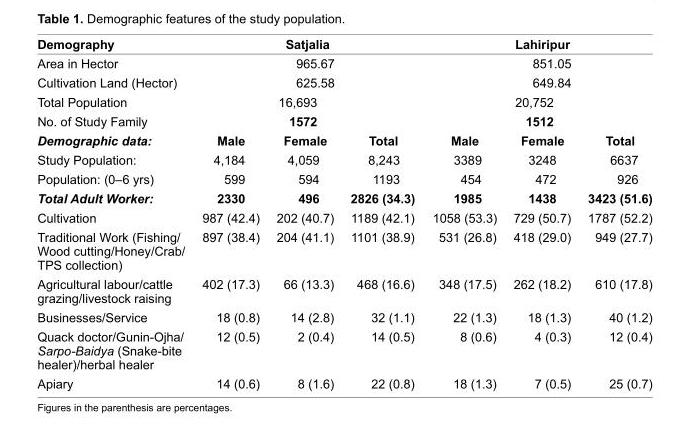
<table><thead><tr><td rowspan="2">Demography Area in Hector</td><td colspan="3">Satjalia</td><td colspan="3">Lahiripur</td></tr><tr><td></td><td>965.67</td><td></td><td></td><td>851.05</td><td></td></tr></thead><tbody><tr><td>Cultivation Land (Hector)</td><td></td><td>625.58</td><td></td><td></td><td>649.84</td><td></td></tr><tr><td>Total Population</td><td></td><td>16,693</td><td></td><td></td><td>20,752</td><td></td></tr><tr><td>No. of Study Family</td><td></td><td>1572</td><td></td><td></td><td>1512</td><td></td></tr><tr><td>Demographic data:</td><td>Male</td><td>Female</td><td>Total</td><td>Male</td><td>Female</td><td>Total</td></tr><tr><td>Study Population:</td><td>4,184</td><td>4,059</td><td>8,243</td><td>3389</td><td>3248</td><td>6637</td></tr><tr><td>Population: (0–6 yrs)</td><td>599</td><td>594</td><td>1193</td><td>454</td><td>472</td><td>926</td></tr><tr><td>Total Adult Worker:</td><td>2330</td><td>496</td><td>2826 (34.3)</td><td>1985</td><td>1438</td><td>3423 (51.6)</td></tr><tr><td>Cultivation</td><td>987 (42.4)</td><td>202 (40.7)</td><td>1189 (42.1)</td><td>1058 (53.3)</td><td>729 (50.7)</td><td>1787 (52.2)</td></tr><tr><td>Traditional Work (Fishing/ Wood cutting/Honey/Crab/ TPS collection)</td><td>897 (38.4)</td><td>204 (41.1)</td><td>1101 (38.9)</td><td>531 (26.8)</td><td>418 (29.0)</td><td>949 (27.7)</td></tr><tr><td>Agricultural labour/cattle grazing/livestock raising</td><td>402 (17.3)</td><td>66 (13.3)</td><td>468 (16.6)</td><td>348 (17.5)</td><td>262 (18.2)</td><td>610 (17.8)</td></tr><tr><td>Businesses/Service</td><td>18 (0.8)</td><td>14 (2.8)</td><td>32 (1.1)</td><td>22 (1.3)</td><td>18 (1.3)</td><td>40 (1.2)</td></tr><tr><td>Quack doctor/Gunin-Ojha/ Sarpo-Baidya (Snake-bite healer)/herbal healer</td><td>12 (0.5)</td><td>2 (0.4)</td><td>14 (0.5)</td><td>8 (0.6)</td><td>4 (0.3)</td><td>12 (0.4)</td></tr><tr><td>Apiary</td><td>14 (0.6)</td><td>8 (1.6)</td><td>22 (0.8)</td><td>18 (1.3)</td><td>7 (0.5)</td><td>25 (0.7)</td></tr></tbody></table>